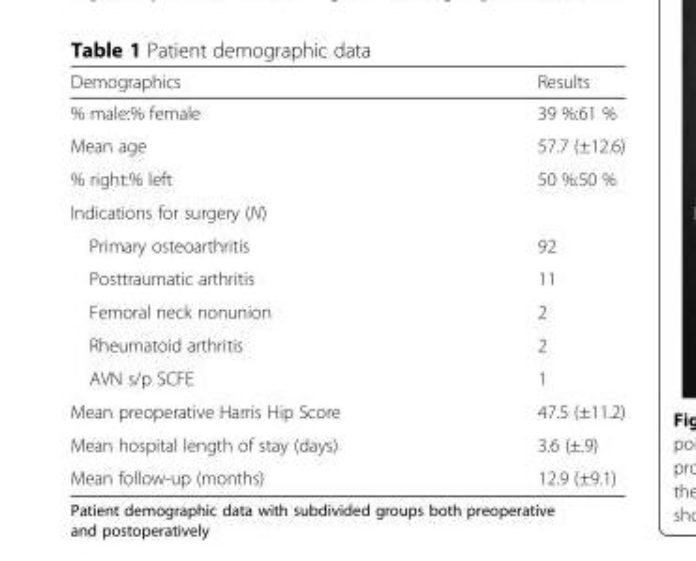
<table><thead><tr><td>Demographics</td><td>Results</td></tr></thead><tbody><tr><td>% male:% female</td><td>39 %:61 %</td></tr><tr><td>Mean age</td><td>57.7 (±12.6)</td></tr><tr><td>% right:% left</td><td>50 %:50 %</td></tr><tr><td colspan="2">Indications for surgery (N)</td></tr><tr><td>Primary osteoarthritis</td><td>92</td></tr><tr><td>Posttraumatic arthritis</td><td>11</td></tr><tr><td>Femoral neck nonunion</td><td>2</td></tr><tr><td>Rheumatoid arthritis</td><td>2</td></tr><tr><td>AVN s/p SCFE</td><td>1</td></tr><tr><td>Mean preoperative Harris Hip Score</td><td>47.5 (±11.2)</td></tr><tr><td>Mean hospital length of stay (days)</td><td>3.6 (±.9)</td></tr><tr><td>Mean follow-up (months)</td><td>12.9 (±9.1)</td></tr></tbody></table>